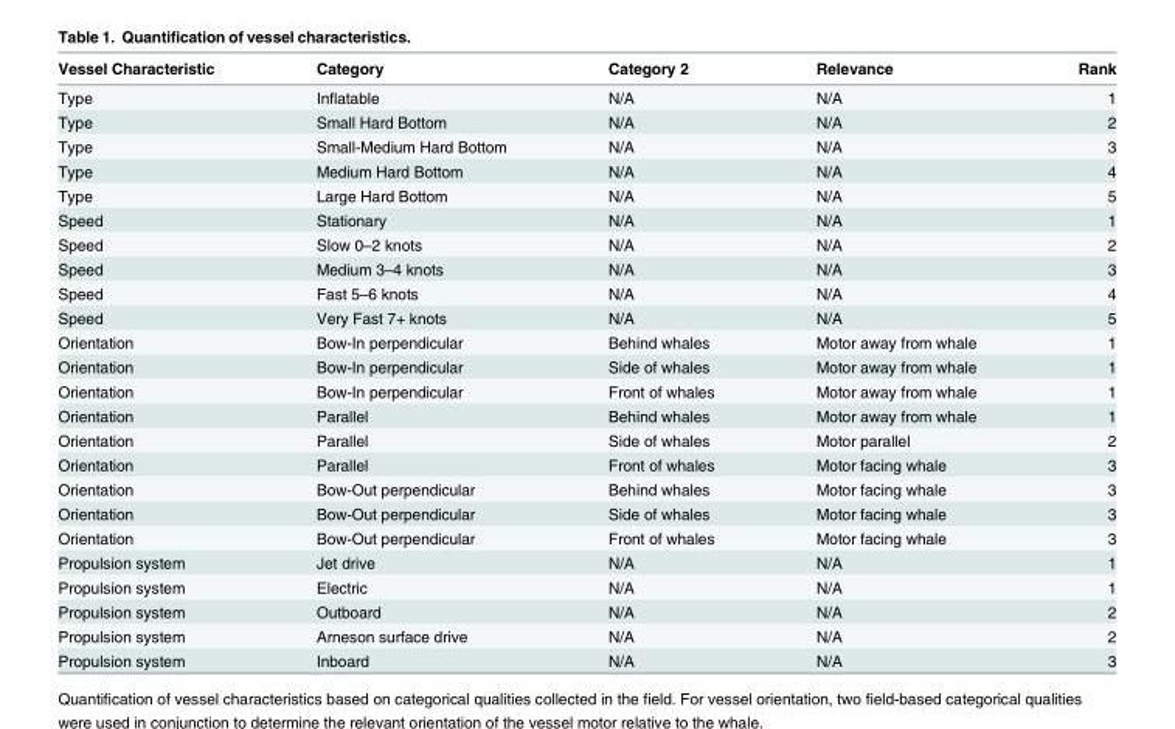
<table><thead><tr><td>Vessel Characteristic</td><td>Category</td><td>Category 2</td><td>Relevance</td><td>Rank</td></tr></thead><tbody><tr><td>Type</td><td>Inflatable</td><td>N/A</td><td>N/A</td><td>1</td></tr><tr><td>Type</td><td>Small Hard Bottom</td><td>N/A</td><td>N/A</td><td>2</td></tr><tr><td>Type</td><td>Small-Medium Hard Bottom</td><td>N/A</td><td>N/A</td><td>3</td></tr><tr><td>Type</td><td>Medium Hard Bottom</td><td>N/A</td><td>N/A</td><td>4</td></tr><tr><td>Type</td><td>Large Hard Bottom</td><td>N/A</td><td>N/A</td><td>5</td></tr><tr><td>Speed</td><td>Stationary</td><td>N/A</td><td>N/A</td><td>1</td></tr><tr><td>Speed</td><td>Slow 0–2 knots</td><td>N/A</td><td>N/A</td><td>2</td></tr><tr><td>Speed</td><td>Medium 3–4 knots</td><td>N/A</td><td>N/A</td><td>3</td></tr><tr><td>Speed</td><td>Fast 5–6 knots</td><td>N/A</td><td>N/A</td><td>4</td></tr><tr><td>Speed</td><td>Very Fast 7+ knots</td><td>N/A</td><td>N/A</td><td>5</td></tr><tr><td>Orientation</td><td>Bow-In perpendicular</td><td>Behind whales</td><td>Motor away from whale</td><td>1</td></tr><tr><td>Orientation</td><td>Bow-In perpendicular</td><td>Side of whales</td><td>Motor away from whale</td><td>1</td></tr><tr><td>Orientation</td><td>Bow-In perpendicular</td><td>Front of whales</td><td>Motor away from whale</td><td>1</td></tr><tr><td>Orientation</td><td>Parallel</td><td>Behind whales</td><td>Motor away from whale</td><td>1</td></tr><tr><td>Orientation</td><td>Parallel</td><td>Side of whales</td><td>Motor parallel</td><td>2</td></tr><tr><td>Orientation</td><td>Parallel</td><td>Front of whales</td><td>Motor facing whale</td><td>3</td></tr><tr><td>Orientation</td><td>Bow-Out perpendicular</td><td>Behind whales</td><td>Motor facing whale</td><td>3</td></tr><tr><td>Orientation</td><td>Bow-Out perpendicular</td><td>Side of whales</td><td>Motor facing whale</td><td>3</td></tr><tr><td>Orientation</td><td>Bow-Out perpendicular</td><td>Front of whales</td><td>Motor facing whale</td><td>3</td></tr><tr><td>Propulsion system</td><td>Jet drive</td><td>N/A</td><td>N/A</td><td>1</td></tr><tr><td>Propulsion system</td><td>Electric</td><td>N/A</td><td>N/A</td><td>1</td></tr><tr><td>Propulsion system</td><td>Outboard</td><td>N/A</td><td>N/A</td><td>2</td></tr><tr><td>Propulsion system</td><td>Arneson surface drive</td><td>N/A</td><td>N/A</td><td>2</td></tr><tr><td>Propulsion system</td><td>Inboard</td><td>N/A</td><td>N/A</td><td>3</td></tr></tbody></table>